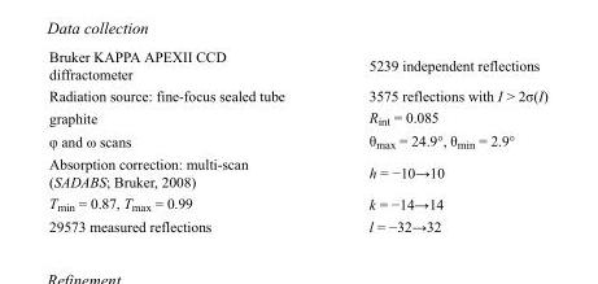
<table><tbody><tr><td>Bruker KAPPA APEXII CCD diffractometer</td><td>5239 independent reflections</td></tr><tr><td>Radiation source: fine-focus sealed tube</td><td>3575 reflections with I &gt; 2σ(I)</td></tr><tr><td>graphite</td><td>R<sub>int</sub> = 0.085</td></tr><tr><td>φ and ω scans</td><td>θ<sub>max</sub> = 24.9°, θ<sub>min</sub> = 2.9°</td></tr><tr><td>Absorption correction: multi-scan (SADABS; Bruker, 2008)</td><td>h = −10→10</td></tr><tr><td>T<sub>min</sub> = 0.87, T<sub>max</sub> = 0.99</td><td>k = −14→14</td></tr><tr><td>29573 measured reflections</td><td>l = −32→32</td></tr></tbody></table>